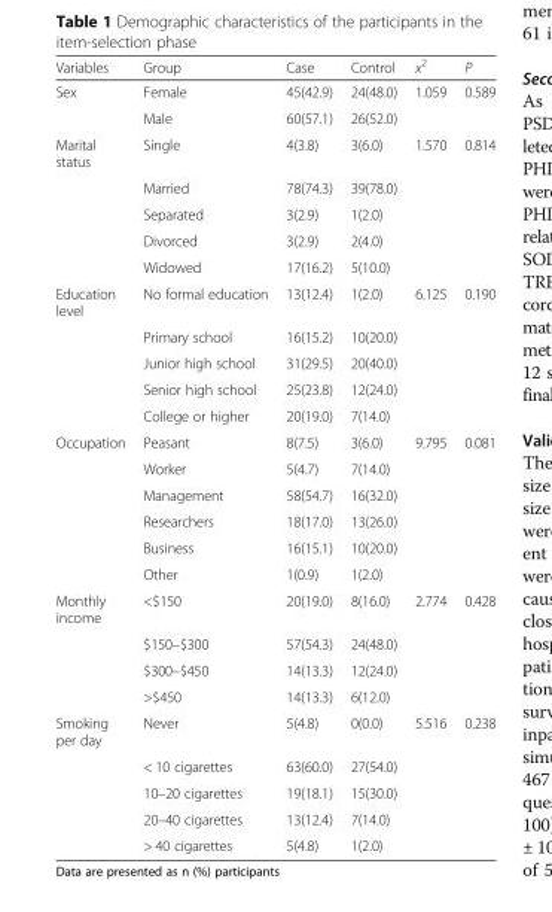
<table><thead><tr><td>Variables</td><td>Group</td><td>Case</td><td>Control</td><td>x<sup>2</sup></td><td>P</td></tr></thead><tbody><tr><td rowspan="2">Sex</td><td>Female</td><td>45(42.9)</td><td>24(48.0)</td><td>1.059</td><td>0.589</td></tr><tr><td>Male</td><td>60(57.1)</td><td>26(52.0)</td><td></td><td></td></tr><tr><td rowspan="5">Marital status</td><td>Single</td><td>4(3.8)</td><td>3(6.0)</td><td>1.570</td><td>0.814</td></tr><tr><td>Married</td><td>78(74.3)</td><td>39(78.0)</td><td></td><td></td></tr><tr><td>Separated</td><td>3(2.9)</td><td>1(2.0)</td><td></td><td></td></tr><tr><td>Divorced</td><td>3(2.9)</td><td>2(4.0)</td><td></td><td></td></tr><tr><td>Widowed</td><td>17(16.2)</td><td>5(10.0)</td><td></td><td></td></tr><tr><td rowspan="5">Education level</td><td>No formal education</td><td>13(12.4)</td><td>1(2.0)</td><td>6.125</td><td>0.190</td></tr><tr><td>Primary school</td><td>16(15.2)</td><td>10(20.0)</td><td></td><td></td></tr><tr><td>Junior high school</td><td>31(29.5)</td><td>20(40.0)</td><td></td><td></td></tr><tr><td>Senior high school</td><td>25(23.8)</td><td>12(24.0)</td><td></td><td></td></tr><tr><td>College or higher</td><td>20(19.0)</td><td>7(14.0)</td><td></td><td></td></tr><tr><td rowspan="6">Occupation</td><td>Peasant</td><td>8(7.5)</td><td>3(6.0)</td><td>9.795</td><td>0.081</td></tr><tr><td>Worker</td><td>5(4.7)</td><td>7(14.0)</td><td></td><td></td></tr><tr><td>Management</td><td>58(54.7)</td><td>16(32.0)</td><td></td><td></td></tr><tr><td>Researchers</td><td>18(17.0)</td><td>13(26.0)</td><td></td><td></td></tr><tr><td>Business</td><td>16(15.1)</td><td>10(20.0)</td><td></td><td></td></tr><tr><td>Other</td><td>1(0.9)</td><td>1(2.0)</td><td></td><td></td></tr><tr><td rowspan="4">Monthly income</td><td>&lt;$150</td><td>20(19.0)</td><td>8(16.0)</td><td>2.774</td><td>0.428</td></tr><tr><td>$150–$300</td><td>57(54.3)</td><td>24(48.0)</td><td></td><td></td></tr><tr><td>$300–$450</td><td>14(13.3)</td><td>12(24.0)</td><td></td><td></td></tr><tr><td>&gt;$450</td><td>14(13.3)</td><td>6(12.0)</td><td></td><td></td></tr><tr><td rowspan="5">Smoking per day</td><td>Never</td><td>5(4.8)</td><td>0(0.0)</td><td>5.516</td><td>0.238</td></tr><tr><td>&lt; 10 cigarettes</td><td>63(60.0)</td><td>27(54.0)</td><td></td><td></td></tr><tr><td>10–20 cigarettes</td><td>19(18.1)</td><td>15(30.0)</td><td></td><td></td></tr><tr><td>20–40 cigarettes</td><td>13(12.4)</td><td>7(14.0)</td><td></td><td></td></tr><tr><td>&gt; 40 cigarettes</td><td>5(4.8)</td><td>1(2.0)</td><td></td><td></td></tr></tbody></table>